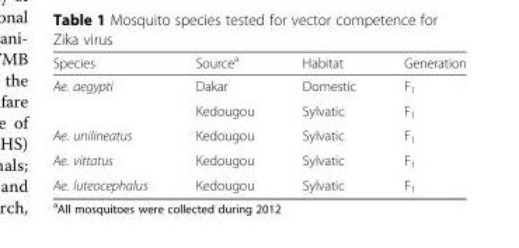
<table><thead><tr><td>Species</td><td>Source<sup>a</sup></td><td>Habitat</td><td>Generation</td></tr></thead><tbody><tr><td rowspan="2">Ae. aegypti</td><td>Dakar</td><td>Domestic</td><td>F<sub>1</sub></td></tr><tr><td>Kedougou</td><td>Sylvatic</td><td>F<sub>1</sub></td></tr><tr><td>Ae. unilineatus</td><td>Kedougou</td><td>Sylvatic</td><td>F<sub>1</sub></td></tr><tr><td>Ae. vittatus</td><td>Kedougou</td><td>Sylvatic</td><td>F<sub>1</sub></td></tr><tr><td>Ae. luteocephalus</td><td>Kedougou</td><td>Sylvatic</td><td>F<sub>1</sub></td></tr></tbody></table>